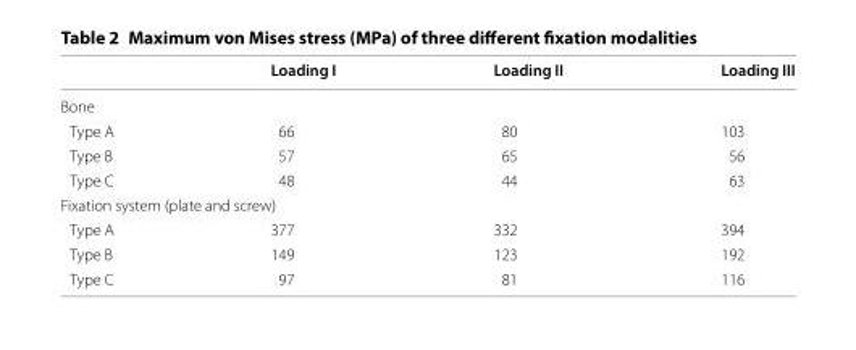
<table><thead><tr><td></td><td>Loading I</td><td>Loading II</td><td>Loading III</td></tr></thead><tbody><tr><td colspan="4">Bone</td></tr><tr><td>Type A</td><td>66</td><td>80</td><td>103</td></tr><tr><td>Type B</td><td>57</td><td>65</td><td>56</td></tr><tr><td>Type C</td><td>48</td><td>44</td><td>63</td></tr><tr><td colspan="4">Fixation system (plate and screw)</td></tr><tr><td>Type A</td><td>377</td><td>332</td><td>394</td></tr><tr><td>Type B</td><td>149</td><td>123</td><td>192</td></tr><tr><td>Type C</td><td>97</td><td>81</td><td>116</td></tr></tbody></table>